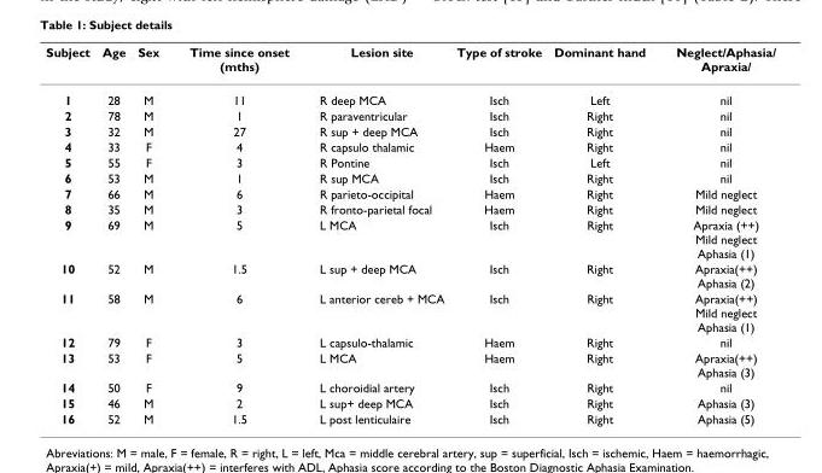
<table><thead><tr><td>Subject</td><td>Age</td><td>Sex</td><td>Time since onset (mths)</td><td>Lesion site</td><td>Type of stroke</td><td>Dominant hand</td><td>Neglect/Aphasia/ Apraxia/</td></tr></thead><tbody><tr><td>1</td><td>28</td><td>M</td><td>11</td><td>R deep MCA</td><td>Isch</td><td>Left</td><td>nil</td></tr><tr><td>2</td><td>78</td><td>M</td><td>1</td><td>R paraventricular</td><td>Isch</td><td>Right</td><td>nil</td></tr><tr><td>3</td><td>32</td><td>M</td><td>27</td><td>R sup + deep MCA</td><td>Isch</td><td>Right</td><td>nil</td></tr><tr><td>4</td><td>33</td><td>F</td><td>4</td><td>R capsulo thalamic</td><td>Haem</td><td>Right</td><td>nil</td></tr><tr><td>5</td><td>55</td><td>F</td><td>3</td><td>R Pontine</td><td>Isch</td><td>Left</td><td>nil</td></tr><tr><td>6</td><td>53</td><td>M</td><td>1</td><td>R sup MCA</td><td>Isch</td><td>Right</td><td>nil</td></tr><tr><td>7</td><td>66</td><td>M</td><td>6</td><td>R parieto-occipital</td><td>Haem</td><td>Right</td><td>Mild neglect</td></tr><tr><td>8</td><td>35</td><td>M</td><td>3</td><td>R fronto-parietal focal</td><td>Haem</td><td>Right</td><td>Mild neglect</td></tr><tr><td>9</td><td>69</td><td>M</td><td>5</td><td>L MCA</td><td>Isch</td><td>Right</td><td>Apraxia (++) Mild neglect Aphasia (1)</td></tr><tr><td>10</td><td>52</td><td>M</td><td>1.5</td><td>L sup + deep MCA</td><td>Isch</td><td>Right</td><td>Apraxia(++) Aphasia (2)</td></tr><tr><td>11</td><td>58</td><td>M</td><td>6</td><td>L anterior cereb + MCA</td><td>Isch</td><td>Right</td><td>Apraxia(++) Mild neglect Aphasia (1)</td></tr><tr><td>12</td><td>79</td><td>F</td><td>3</td><td>L capsulo-thalamic</td><td>Haem</td><td>Right</td><td>nil</td></tr><tr><td>13</td><td>53</td><td>F</td><td>5</td><td>L MCA</td><td>Haem</td><td>Right</td><td>Apraxia(++) Aphasia (3)</td></tr><tr><td>14</td><td>50</td><td>F</td><td>9</td><td>L choroidial artery</td><td>Isch</td><td>Right</td><td>nil</td></tr><tr><td>15</td><td>46</td><td>M</td><td>2</td><td>L sup+ deep MCA</td><td>Isch</td><td>Right</td><td>Aphasia (3)</td></tr><tr><td>16</td><td>52</td><td>M</td><td>1.5</td><td>L post lenticulaire</td><td>Isch</td><td>Right</td><td>Aphasia (5)</td></tr></tbody></table>